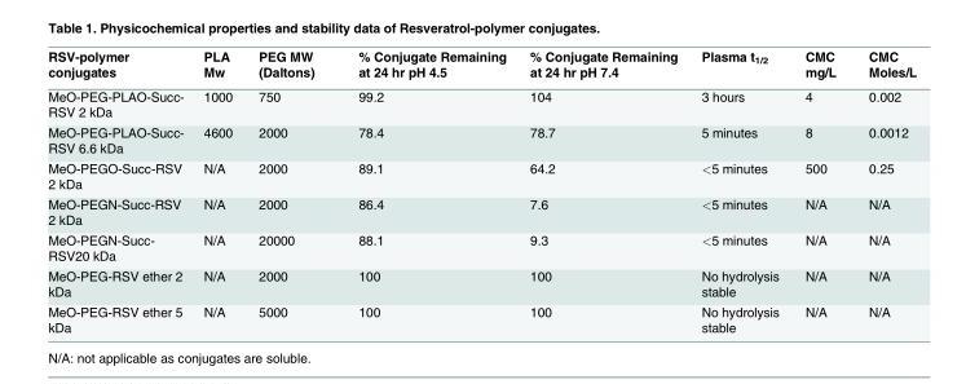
<table><thead><tr><td>RSV-polymer conjugates</td><td>PLA Mw</td><td>PEG MW (Daltons)</td><td>% Conjugate Remaining at 24 hr pH 4.5</td><td>% Conjugate Remaining at 24 hr pH 7.4</td><td>Plasma t<sub>1/2</sub></td><td>CMC mg/L</td><td>CMC Moles/L</td></tr></thead><tbody><tr><td>MeO-PEG-PLAO-Succ- RSV 2 kDa</td><td>1000</td><td>750</td><td>99.2</td><td>104</td><td>3 hours</td><td>4</td><td>0.002</td></tr><tr><td>MeO-PEG-PLAO-Succ- RSV 6.6 kDa</td><td>4600</td><td>2000</td><td>78.4</td><td>78.7</td><td>5 minutes</td><td>8</td><td>0.0012</td></tr><tr><td>MeO-PEGO-Succ-RSV 2 kDa</td><td>N/A</td><td>2000</td><td>89.1</td><td>64.2</td><td>&lt;5 minutes</td><td>500</td><td>0.25</td></tr><tr><td>MeO-PEGN-Succ-RSV 2 kDa</td><td>N/A</td><td>2000</td><td>86.4</td><td>7.6</td><td>&lt;5 minutes</td><td>N/A</td><td>N/A</td></tr><tr><td>MeO-PEGN-Succ- RSV20 kDa</td><td>N/A</td><td>20000</td><td>88.1</td><td>9.3</td><td>&lt;5 minutes</td><td>N/A</td><td>N/A</td></tr><tr><td>MeO-PEG-RSV ether 2 kDa</td><td>N/A</td><td>2000</td><td>100</td><td>100</td><td>No hydrolysis stable</td><td>N/A</td><td>N/A</td></tr><tr><td>MeO-PEG-RSV ether 5 kDa</td><td>N/A</td><td>5000</td><td>100</td><td>100</td><td>No hydrolysis stable</td><td>N/A</td><td>N/A</td></tr></tbody></table>